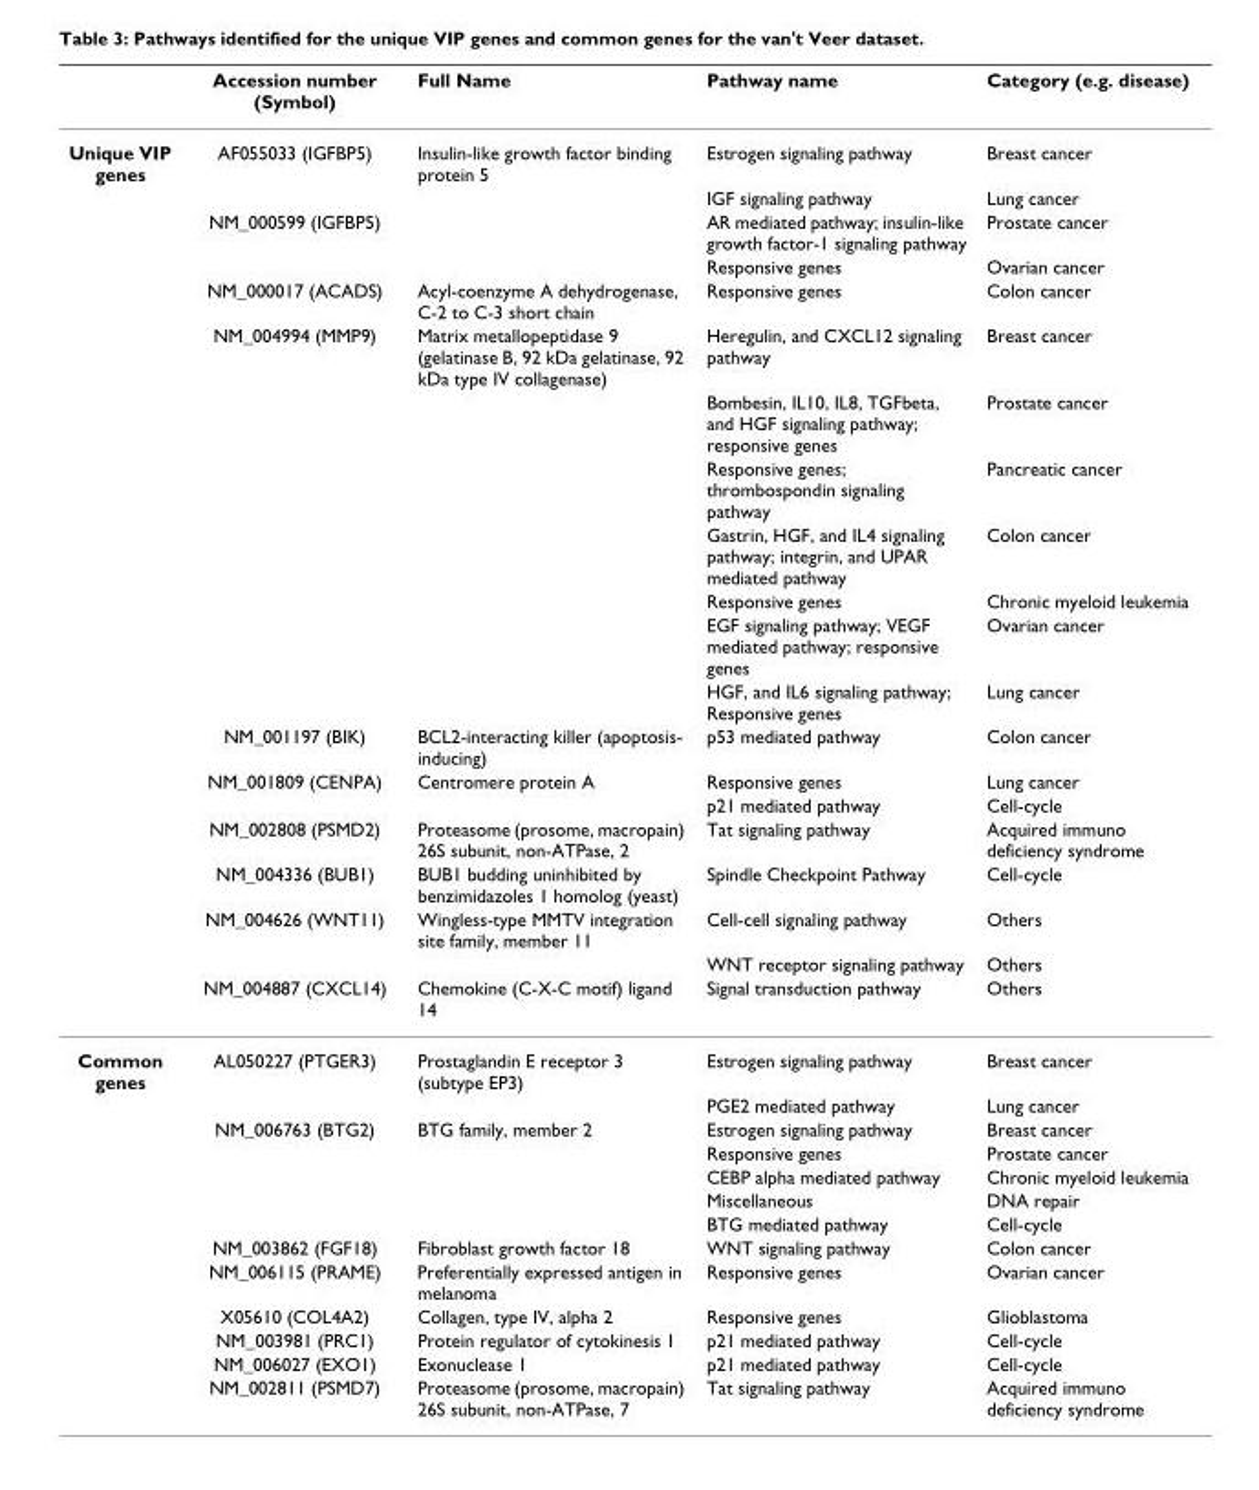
<table><thead><tr><td></td><td>Accession number (Symbol)</td><td>Full Name</td><td>Pathway name</td><td>Category (e.g. disease)</td></tr></thead><tbody><tr><td rowspan="20">Unique VIP genes</td><td>AF055033 (IGFBP5)</td><td>Insulin-like growth factor binding protein 5</td><td>Estrogen signaling pathway</td><td>Breast cancer</td></tr><tr><td></td><td></td><td>IGF signaling pathway</td><td>Lung cancer</td></tr><tr><td>NM_000599 (IGFBP5)</td><td></td><td>AR mediated pathway; insulin-like growth factor-1 signaling pathway</td><td>Prostate cancer</td></tr><tr><td></td><td></td><td>Responsive genes</td><td>Ovarian cancer</td></tr><tr><td>NM_000017 (ACADS)</td><td>Acyl-coenzyme A dehydrogenase, C-2 to C-3 short chain</td><td>Responsive genes</td><td>Colon cancer</td></tr><tr><td>NM_004994 (MMP9)</td><td>Matrix metallopeptidase 9 (gelatinase B, 92 kDa gelatinase, 92 kDa type IV collagenase)</td><td>Heregulin, and CXCL12 signaling pathway</td><td>Breast cancer</td></tr><tr><td></td><td></td><td>Bombesin, IL10, IL8, TGFbeta, and HGF signaling pathway; responsive genes</td><td>Prostate cancer</td></tr><tr><td></td><td></td><td>Responsive genes; thrombospondin signaling pathway</td><td>Pancreatic cancer</td></tr><tr><td></td><td></td><td>Gastrin, HGF, and IL4 signaling pathway; integrin, and UPAR mediated pathway</td><td>Colon cancer</td></tr><tr><td></td><td></td><td>Responsive genes</td><td>Chronic myeloid leukemia</td></tr><tr><td></td><td></td><td>EGF signaling pathway; VEGF mediated pathway; responsive genes</td><td>Ovarian cancer</td></tr><tr><td></td><td></td><td>HGF, and IL6 signaling pathway; Responsive genes</td><td>Lung cancer</td></tr><tr><td>NM_001197 (BIK)</td><td>BCL2-interacting killer (apoptosis- inducing)</td><td>p53 mediated pathway</td><td>Colon cancer</td></tr><tr><td>NM_001809 (CENPA)</td><td>Centromere protein A</td><td>Responsive genes</td><td>Lung cancer</td></tr><tr><td></td><td></td><td>p21 mediated pathway</td><td>Cell-cycle</td></tr><tr><td>NM_002808 (PSMD2)</td><td>Proteasome (prosome, macropain) 26S subunit, non-ATPase, 2</td><td>Tat signaling pathway</td><td>Acquired immuno deficiency syndrome</td></tr><tr><td>NM_004336 (BUB1)</td><td>BUB1 budding uninhibited by benzimidazoles 1 homolog (yeast)</td><td>Spindle Checkpoint Pathway</td><td>Cell-cycle</td></tr><tr><td>NM_004626 (WNT11)</td><td>Wingless-type MMTV integration site family, member 11</td><td>Cell-cell signaling pathway</td><td>Others</td></tr><tr><td></td><td></td><td>WNT receptor signaling pathway</td><td>Others</td></tr><tr><td>NM_004887 (CXCL14)</td><td>Chemokine (C-X-C motif) ligand 14</td><td>Signal transduction pathway</td><td>Others</td></tr><tr><td rowspan="13">Common genes</td><td>AL050227 (PTGER3)</td><td>Prostaglandin E receptor 3 (subtype EP3)</td><td>Estrogen signaling pathway</td><td>Breast cancer</td></tr><tr><td></td><td></td><td>PGE2 mediated pathway</td><td>Lung cancer</td></tr><tr><td>NM_006763 (BTG2)</td><td>BTG family, member 2</td><td>Estrogen signaling pathway</td><td>Breast cancer</td></tr><tr><td></td><td></td><td>Responsive genes</td><td>Prostate cancer</td></tr><tr><td></td><td></td><td>CEBP alpha mediated pathway</td><td>Chronic myeloid leukemia</td></tr><tr><td></td><td></td><td>Miscellaneous</td><td>DNA repair</td></tr><tr><td></td><td></td><td>BTG mediated pathway</td><td>Cell-cycle</td></tr><tr><td>NM_003862 (FGF18)</td><td>Fibroblast growth factor 18</td><td>WNT signaling pathway</td><td>Colon cancer</td></tr><tr><td>NM_006115 (PRAME)</td><td>Preferentially expressed antigen in melanoma</td><td>Responsive genes</td><td>Ovarian cancer</td></tr><tr><td>X05610 (COL4A2)</td><td>Collagen, type IV, alpha 2</td><td>Responsive genes</td><td>Glioblastoma</td></tr><tr><td>NM_003981 (PRC1)</td><td>Protein regulator of cytokinesis 1</td><td>p21 mediated pathway</td><td>Cell-cycle</td></tr><tr><td>NM_006027 (EXO1)</td><td>Exonuclease 1</td><td>p21 mediated pathway</td><td>Cell-cycle</td></tr><tr><td>NM_002811 (PSMD7)</td><td>Proteasome (prosome, macropain) 26S subunit, non-ATPase, 7</td><td>Tat signaling pathway</td><td>Acquired immuno deficiency syndrome</td></tr></tbody></table>